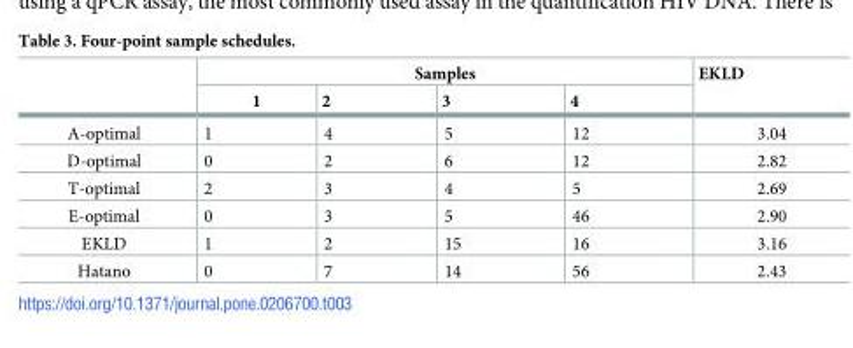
<table><thead><tr><td rowspan="2"></td><td colspan="4">Samples</td><td rowspan="2">EKLD</td></tr><tr><td>1</td><td>2</td><td>3</td><td>4</td></tr></thead><tbody><tr><td>A-optimal</td><td>1</td><td>4</td><td>5</td><td>12</td><td>3.04</td></tr><tr><td>D-optimal</td><td>0</td><td>2</td><td>6</td><td>12</td><td>2.82</td></tr><tr><td>T-optimal</td><td>2</td><td>3</td><td>4</td><td>5</td><td>2.69</td></tr><tr><td>E-optimal</td><td>0</td><td>3</td><td>5</td><td>46</td><td>2.90</td></tr><tr><td>EKLD</td><td>1</td><td>2</td><td>15</td><td>16</td><td>3.16</td></tr><tr><td>Hatano</td><td>0</td><td>7</td><td>14</td><td>56</td><td>2.43</td></tr></tbody></table>